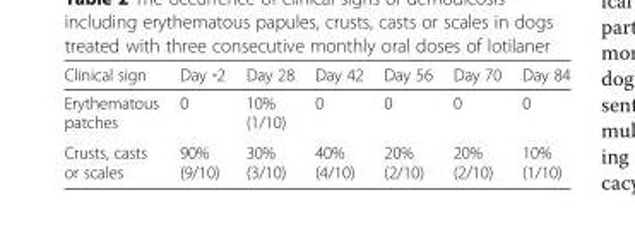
<table><thead><tr><td>Clinical sign</td><td>Day ‐2</td><td>Day 28</td><td>Day 42</td><td>Day 56</td><td>Day 70</td><td>Day 84</td></tr></thead><tbody><tr><td>Erythematous patches</td><td>0</td><td>10% (1/10)</td><td>0</td><td>0</td><td>0</td><td>0</td></tr><tr><td>Crusts, casts or scales</td><td>90% (9/10)</td><td>30% (3/10)</td><td>40% (4/10)</td><td>20% (2/10)</td><td>20% (2/10)</td><td>10% (1/10)</td></tr></tbody></table>